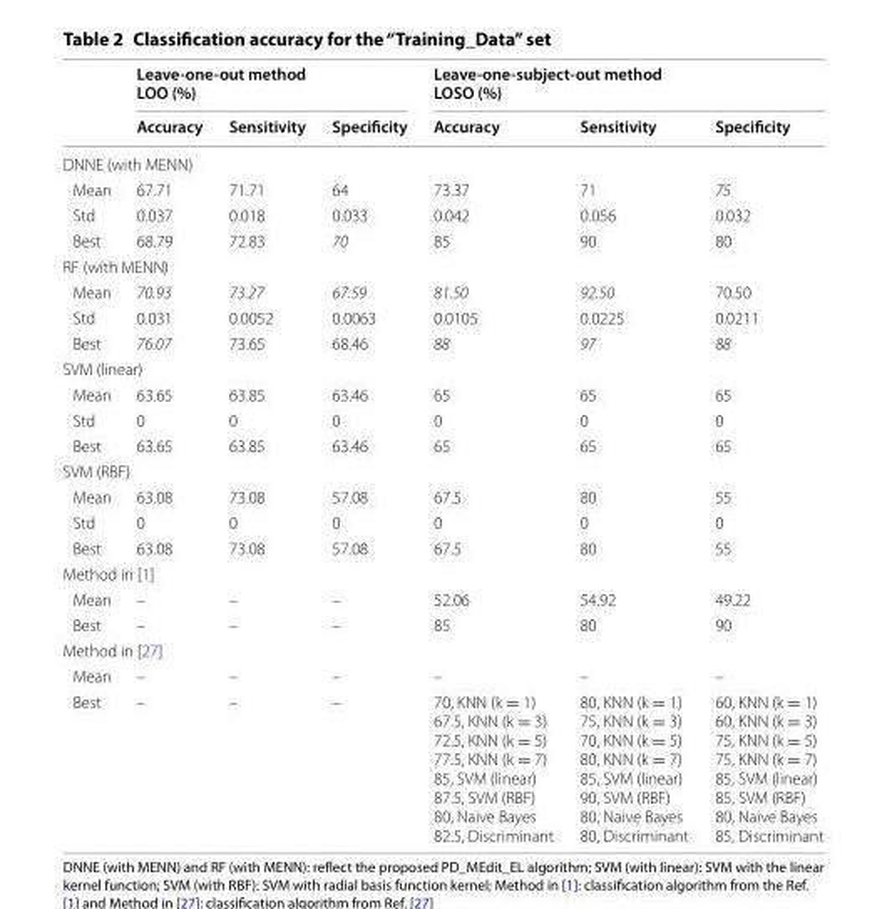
<table><thead><tr><td rowspan="2"></td><td colspan="3">Leave‑one‑out method LOO (%)</td><td colspan="3">Leave‑one‑subject‑out method LOSO (%)</td></tr><tr><td>Accuracy</td><td>Sensitivity</td><td>Specificity</td><td>Accuracy</td><td>Sensitivity</td><td>Specificity</td></tr></thead><tbody><tr><td colspan="7">DNNE (with MENN)</td></tr><tr><td>Mean</td><td>67.71</td><td>71.71</td><td>64</td><td>73.37</td><td>71</td><td>75</td></tr><tr><td>Std</td><td>0.037</td><td>0.018</td><td>0.033</td><td>0.042</td><td>0.056</td><td>0.032</td></tr><tr><td>Best</td><td>68.79</td><td>72.83</td><td>70</td><td>85</td><td>90</td><td>80</td></tr><tr><td colspan="7">RF (with MENN)</td></tr><tr><td>Mean</td><td>70.93</td><td>73.27</td><td>67.59</td><td>81.50</td><td>92.50</td><td>70.50</td></tr><tr><td>Std</td><td>0.031</td><td>0.0052</td><td>0.0063</td><td>0.0105</td><td>0.0225</td><td>0.0211</td></tr><tr><td>Best</td><td>76.07</td><td>73.65</td><td>68.46</td><td>88</td><td>97</td><td>88</td></tr><tr><td colspan="7">SVM (linear)</td></tr><tr><td>Mean</td><td>63.65</td><td>63.85</td><td>63.46</td><td>65</td><td>65</td><td>65</td></tr><tr><td>Std</td><td>0</td><td>0</td><td>0</td><td>0</td><td>0</td><td>0</td></tr><tr><td>Best</td><td>63.65</td><td>63.85</td><td>63.46</td><td>65</td><td>65</td><td>65</td></tr><tr><td colspan="7">SVM (RBF)</td></tr><tr><td>Mean</td><td>63.08</td><td>73.08</td><td>57.08</td><td>67.5</td><td>80</td><td>55</td></tr><tr><td>Std</td><td>0</td><td>0</td><td>0</td><td>0</td><td>0</td><td>0</td></tr><tr><td>Best</td><td>63.08</td><td>73.08</td><td>57.08</td><td>67.5</td><td>80</td><td>55</td></tr><tr><td colspan="7">Method in [1]</td></tr><tr><td>Mean</td><td>–</td><td>–</td><td>–</td><td>52.06</td><td>54.92</td><td>49.22</td></tr><tr><td>Best</td><td>–</td><td>–</td><td>–</td><td>85</td><td>80</td><td>90</td></tr><tr><td colspan="7">Method in [27]</td></tr><tr><td>Mean</td><td>–</td><td>–</td><td>–</td><td>–</td><td>–</td><td>–</td></tr><tr><td>Best</td><td>–</td><td>–</td><td>–</td><td>70, KNN (k = 1) 67.5, KNN (k = 3) 72.5, KNN (k = 5) 77.5, KNN (k = 7) 85, SVM (linear) 87.5, SVM (RBF) 80, Naive Bayes 82.5, Discriminant</td><td>80, KNN (k = 1) 75, KNN (k = 3) 70, KNN (k = 5) 80, KNN (k = 7) 85, SVM (linear) 90, SVM (RBF) 80, Naive Bayes 80, Discriminant</td><td>60, KNN (k = 1) 60, KNN (k = 3) 75, KNN (k = 5) 75, KNN (k = 7) 85, SVM (linear) 85, SVM (RBF) 80, Naive Bayes 85, Discriminant</td></tr></tbody></table>